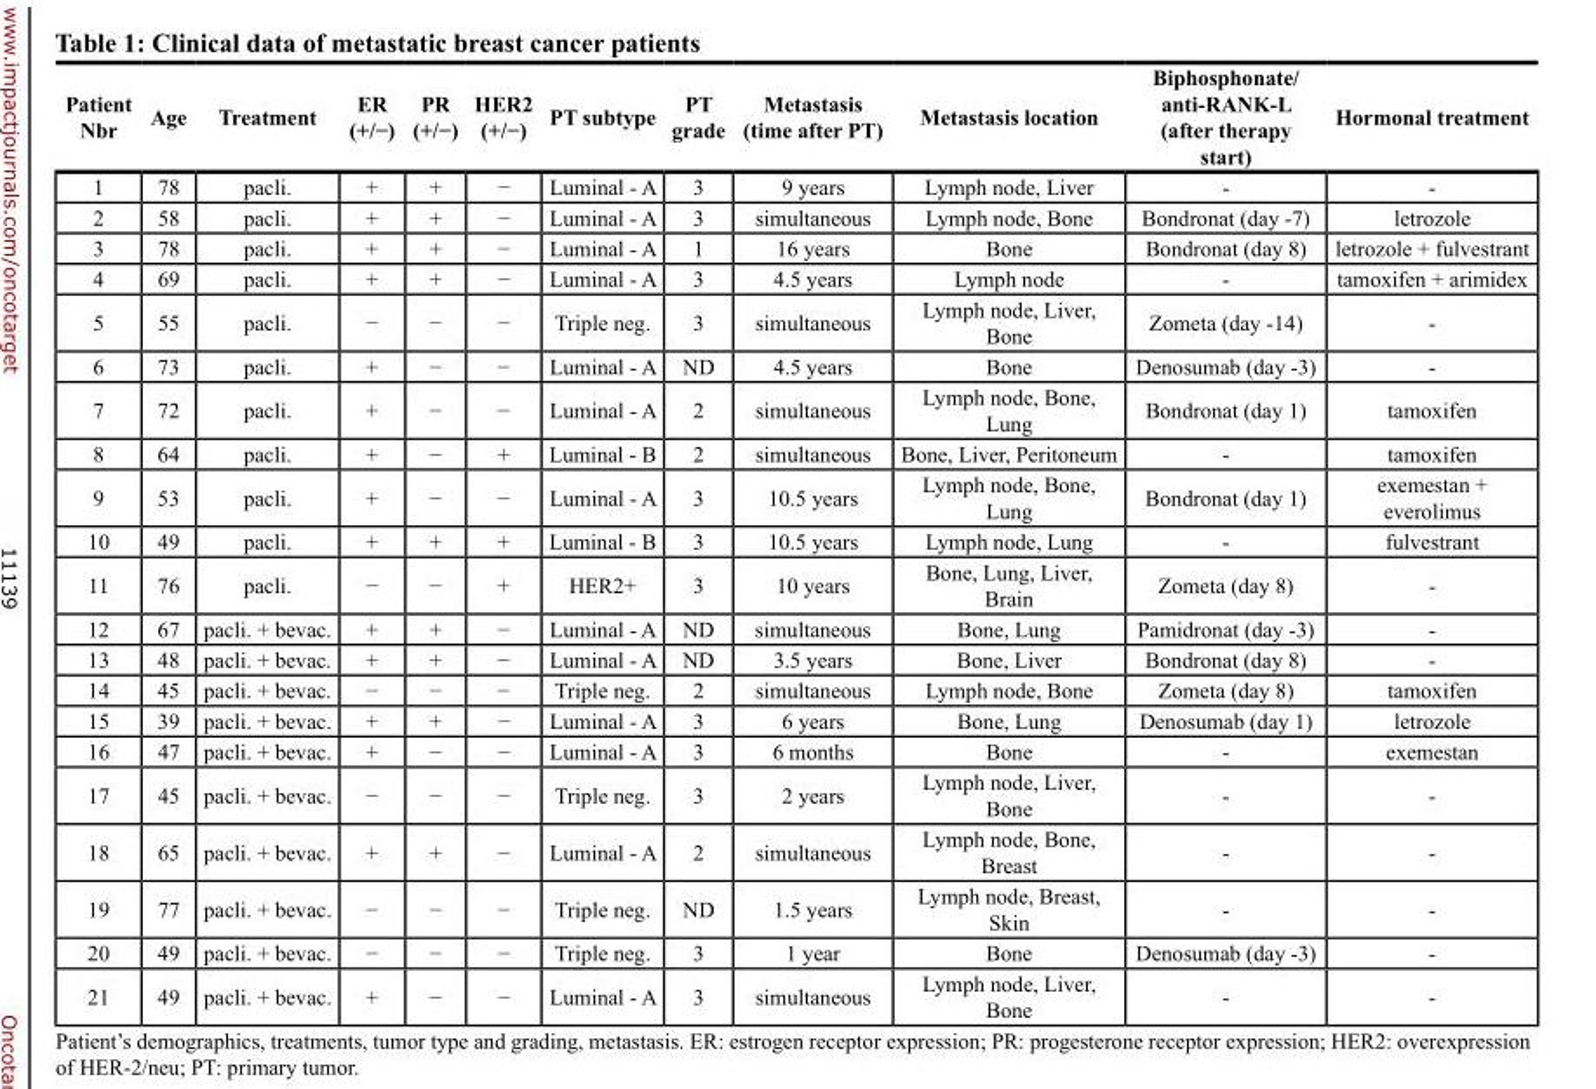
<table><thead><tr><td>Patient Nbr</td><td>Age</td><td>treatment</td><td>Er (+/−)</td><td>Pr (+/−)</td><td>HEr2 (+/−)</td><td>Pt subtype</td><td>Pt grade</td><td>Metastasis (time after PT)</td><td>Metastasis location</td><td>biphosphonate/ anti-rANK-L (after therapy start)</td><td>Hormonal treatment</td></tr></thead><tbody><tr><td>1</td><td>78</td><td>pacli.</td><td>+</td><td>+</td><td>−</td><td>Luminal - A</td><td>3</td><td>9 years</td><td>Lymph node, Liver</td><td>-</td><td>-</td></tr><tr><td>2</td><td>58</td><td>pacli.</td><td>+</td><td>+</td><td>−</td><td>Luminal - A</td><td>3</td><td>simultaneous</td><td>Lymph node, Bone</td><td>Bondronat (day -7)</td><td>letrozole</td></tr><tr><td>3</td><td>78</td><td>pacli.</td><td>+</td><td>+</td><td>−</td><td>Luminal - A</td><td>1</td><td>16 years</td><td>Bone</td><td>Bondronat (day 8)</td><td>letrozole + fulvestrant</td></tr><tr><td>4</td><td>69</td><td>pacli.</td><td>+</td><td>+</td><td>−</td><td>Luminal - A</td><td>3</td><td>4.5 years</td><td>Lymph node</td><td>-</td><td>tamoxifen + arimidex</td></tr><tr><td>5</td><td>55</td><td>pacli.</td><td>−</td><td>−</td><td>−</td><td>Triple neg.</td><td>3</td><td>simultaneous</td><td>Lymph node, Liver, Bone</td><td>Zometa (day -14)</td><td>-</td></tr><tr><td>6</td><td>73</td><td>pacli.</td><td>+</td><td>−</td><td>−</td><td>Luminal - A</td><td>ND</td><td>4.5 years</td><td>Bone</td><td>Denosumab (day -3)</td><td>-</td></tr><tr><td>7</td><td>72</td><td>pacli.</td><td>+</td><td>−</td><td>−</td><td>Luminal - A</td><td>2</td><td>simultaneous</td><td>Lymph node, Bone, Lung</td><td>Bondronat (day 1)</td><td>tamoxifen</td></tr><tr><td>8</td><td>64</td><td>pacli.</td><td>+</td><td>−</td><td>+</td><td>Luminal - B</td><td>2</td><td>simultaneous</td><td>Bone, Liver, Peritoneum</td><td>-</td><td>tamoxifen</td></tr><tr><td>9</td><td>53</td><td>pacli.</td><td>+</td><td>−</td><td>−</td><td>Luminal - A</td><td>3</td><td>10.5 years</td><td>Lymph node, Bone, Lung</td><td>Bondronat (day 1)</td><td>exemestan + everolimus</td></tr><tr><td>10</td><td>49</td><td>pacli.</td><td>+</td><td>+</td><td>+</td><td>Luminal - B</td><td>3</td><td>10.5 years</td><td>Lymph node, Lung</td><td>-</td><td>fulvestrant</td></tr><tr><td>11</td><td>76</td><td>pacli.</td><td>−</td><td>−</td><td>+</td><td>HER2+</td><td>3</td><td>10 years</td><td>Bone, Lung, Liver, Brain</td><td>Zometa (day 8)</td><td>-</td></tr><tr><td>12</td><td>67</td><td>pacli. + bevac.</td><td>+</td><td>+</td><td>−</td><td>Luminal - A</td><td>ND</td><td>simultaneous</td><td>Bone, Lung</td><td>Pamidronat (day -3)</td><td>-</td></tr><tr><td>13</td><td>48</td><td>pacli. + bevac.</td><td>+</td><td>+</td><td>−</td><td>Luminal - A</td><td>ND</td><td>3.5 years</td><td>Bone, Liver</td><td>Bondronat (day 8)</td><td>-</td></tr><tr><td>14</td><td>45</td><td>pacli. + bevac.</td><td>−</td><td>−</td><td>−</td><td>Triple neg.</td><td>2</td><td>simultaneous</td><td>Lymph node, Bone</td><td>Zometa (day 8)</td><td>tamoxifen</td></tr><tr><td>15</td><td>39</td><td>pacli. + bevac.</td><td>+</td><td>+</td><td>−</td><td>Luminal - A</td><td>3</td><td>6 years</td><td>Bone, Lung</td><td>Denosumab (day 1)</td><td>letrozole</td></tr><tr><td>16</td><td>47</td><td>pacli. + bevac.</td><td>+</td><td>−</td><td>−</td><td>Luminal - A</td><td>3</td><td>6 months</td><td>Bone</td><td>-</td><td>exemestan</td></tr><tr><td>17</td><td>45</td><td>pacli. + bevac.</td><td>−</td><td>−</td><td>−</td><td>Triple neg.</td><td>3</td><td>2 years</td><td>Lymph node, Liver, Bone</td><td>-</td><td>-</td></tr><tr><td>18</td><td>65</td><td>pacli. + bevac.</td><td>+</td><td>+</td><td>−</td><td>Luminal - A</td><td>2</td><td>simultaneous</td><td>Lymph node, Bone, Breast</td><td>-</td><td>-</td></tr><tr><td>19</td><td>77</td><td>pacli. + bevac.</td><td>−</td><td>−</td><td>−</td><td>Triple neg.</td><td>ND</td><td>1.5 years</td><td>Lymph node, Breast, Skin</td><td>-</td><td>-</td></tr><tr><td>20</td><td>49</td><td>pacli. + bevac.</td><td>−</td><td>−</td><td>−</td><td>Triple neg.</td><td>3</td><td>1 year</td><td>Bone</td><td>Denosumab (day -3)</td><td>-</td></tr><tr><td>21</td><td>49</td><td>pacli. + bevac.</td><td>+</td><td>−</td><td>−</td><td>Luminal - A</td><td>3</td><td>simultaneous</td><td>Lymph node, Liver, Bone</td><td>-</td><td>-</td></tr></tbody></table>